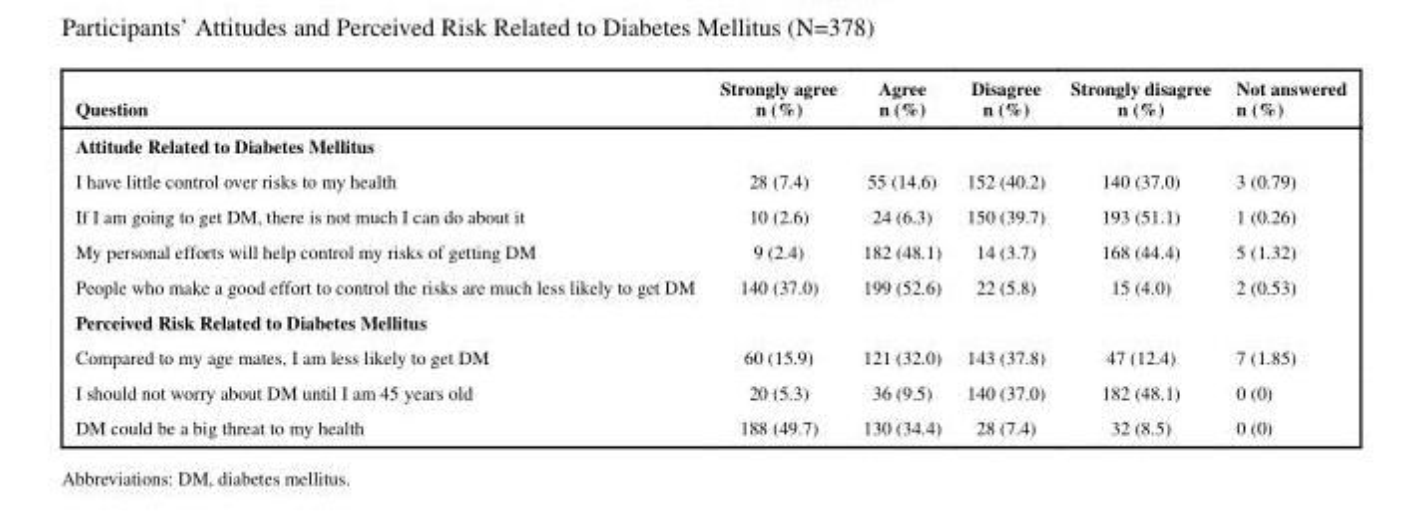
<table><thead><tr><td>Question</td><td>Strongly agree n (%)</td><td>Agree n (%)</td><td>Disagree n (%)</td><td>Strongly disagree n (%)</td><td>Not answered n (%)</td></tr></thead><tbody><tr><td colspan="6">Attitude Related to Diabetes Mellitus</td></tr><tr><td>I have little control over risks to my health</td><td>28 (7.4)</td><td>55 (14.6)</td><td>152 (40.2)</td><td>140 (37.0)</td><td>3 (0.79)</td></tr><tr><td>If I am going to get DM, there is not much I can do about it</td><td>10 (2.6)</td><td>24 (6.3)</td><td>150 (39.7)</td><td>193 (51.1)</td><td>1 (0.26)</td></tr><tr><td>My personal efforts will help control my risks of getting DM</td><td>9 (2.4)</td><td>182 (48.1)</td><td>14 (3.7)</td><td>168 (44.4)</td><td>5 (1.32)</td></tr><tr><td>People who make a good effort to control the risks are much less likely to get DM</td><td>140 (37.0)</td><td>199 (52.6)</td><td>22 (5.8)</td><td>15 (4.0)</td><td>2 (0.53)</td></tr><tr><td colspan="6">Perceived Risk Related to Diabetes Mellitus</td></tr><tr><td>Compared to my age mates, I am less likely to get DM</td><td>60 (15.9)</td><td>121 (32.0)</td><td>143 (37.8)</td><td>47 (12.4)</td><td>7 (1.85)</td></tr><tr><td>I should not worry about DM until I am 45 years old</td><td>20 (5.3)</td><td>36 (9.5)</td><td>140 (37.0)</td><td>182 (48.1)</td><td>0 (0)</td></tr><tr><td>DM could be a big threat to my health</td><td>188 (49.7)</td><td>130 (34.4)</td><td>28 (7.4)</td><td>32 (8.5)</td><td>0 (0)</td></tr></tbody></table>